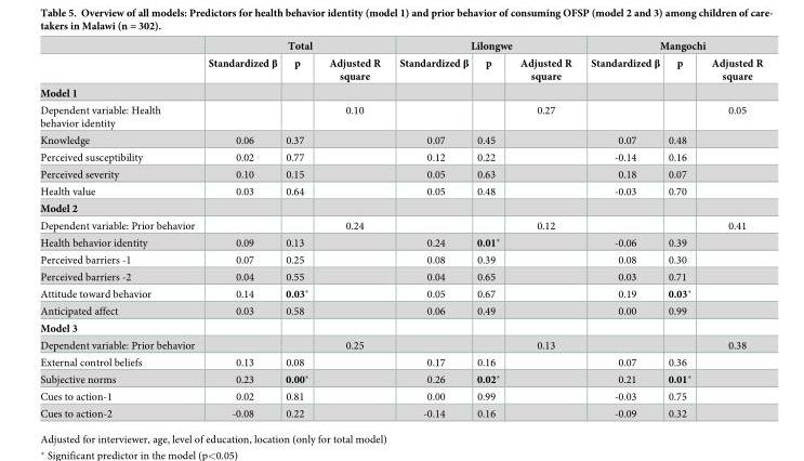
<table><thead><tr><td rowspan="2"></td><td colspan="3">Total</td><td colspan="3">Lilongwe</td><td colspan="3">Mangochi</td></tr><tr><td>Standardized β</td><td>p</td><td>Adjusted R square</td><td>Standardized β</td><td>p</td><td>Adjusted R square</td><td>Standardized β</td><td>p</td><td>Adjusted R square</td></tr></thead><tbody><tr><td colspan="10">Model 1</td></tr><tr><td>Dependent variable: Health behavior identity</td><td></td><td></td><td>0.10</td><td></td><td></td><td>0.27</td><td></td><td></td><td>0.05</td></tr><tr><td>Knowledge</td><td>0.06</td><td>0.37</td><td></td><td>0.07</td><td>0.45</td><td></td><td>0.07</td><td>0.48</td><td></td></tr><tr><td>Perceived susceptibility</td><td>0.02</td><td>0.77</td><td></td><td>0.12</td><td>0.22</td><td></td><td>-0.14</td><td>0.16</td><td></td></tr><tr><td>Perceived severity</td><td>0.10</td><td>0.15</td><td></td><td>0.05</td><td>0.63</td><td></td><td>0.18</td><td>0.07</td><td></td></tr><tr><td>Health value</td><td>0.03</td><td>0.64</td><td></td><td>0.05</td><td>0.48</td><td></td><td>-0.03</td><td>0.70</td><td></td></tr><tr><td colspan="10">Model 2</td></tr><tr><td>Dependent variable: Prior behavior</td><td></td><td></td><td>0.24</td><td></td><td></td><td>0.12</td><td></td><td></td><td>0.41</td></tr><tr><td>Health behavior identity</td><td>0.09</td><td>0.13</td><td></td><td>0.24</td><td>0.01*</td><td></td><td>-0.06</td><td>0.39</td><td></td></tr><tr><td>Perceived barriers -1</td><td>0.07</td><td>0.25</td><td></td><td>0.08</td><td>0.39</td><td></td><td>0.08</td><td>0.30</td><td></td></tr><tr><td>Perceived barriers -2</td><td>0.04</td><td>0.55</td><td></td><td>0.04</td><td>0.65</td><td></td><td>0.03</td><td>0.71</td><td></td></tr><tr><td>Attitude toward behavior</td><td>0.14</td><td>0.03*</td><td></td><td>0.05</td><td>0.67</td><td></td><td>0.19</td><td>0.03*</td><td></td></tr><tr><td>Anticipated affect</td><td>0.03</td><td>0.58</td><td></td><td>0.06</td><td>0.49</td><td></td><td>0.00</td><td>0.99</td><td></td></tr><tr><td colspan="10">Model 3</td></tr><tr><td>Dependent variable: Prior behavior</td><td></td><td></td><td>0.25</td><td></td><td></td><td>0.13</td><td></td><td></td><td>0.38</td></tr><tr><td>External control beliefs</td><td>0.13</td><td>0.08</td><td></td><td>0.17</td><td>0.16</td><td></td><td>0.07</td><td>0.36</td><td></td></tr><tr><td>Subjective norms</td><td>0.23</td><td>0.00*</td><td></td><td>0.26</td><td>0.02*</td><td></td><td>0.21</td><td>0.01*</td><td></td></tr><tr><td>Cues to action-1</td><td>0.02</td><td>0.81</td><td></td><td>0.00</td><td>0.99</td><td></td><td>-0.03</td><td>0.75</td><td></td></tr><tr><td>Cues to action-2</td><td>-0.08</td><td>0.22</td><td></td><td>-0.14</td><td>0.16</td><td></td><td>-0.09</td><td>0.32</td><td></td></tr></tbody></table>